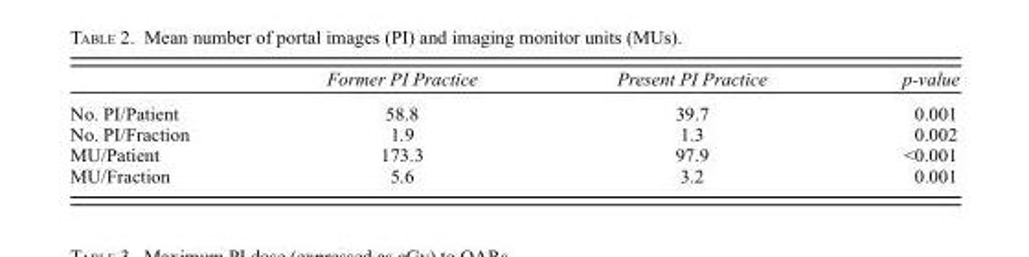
<table><thead><tr><td></td><td>Former PI Practice</td><td>Present PI Practice</td><td>p-value</td></tr></thead><tbody><tr><td>No. PI/Patient</td><td>58.8</td><td>39.7</td><td>0.001</td></tr><tr><td>No. PI/Fraction</td><td>1.9</td><td>1.3</td><td>0.002</td></tr><tr><td>MU/Patient</td><td>173.3</td><td>97.9</td><td>&lt;0.001</td></tr><tr><td>MU/Fraction</td><td>5.6</td><td>3.2</td><td>0.001</td></tr></tbody></table>